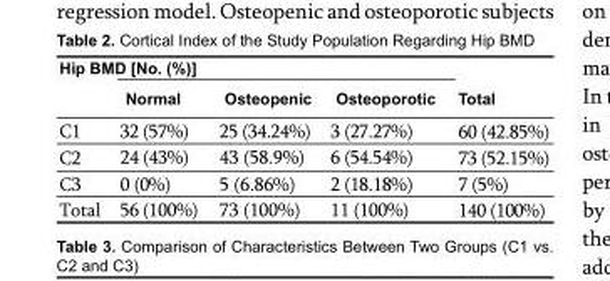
<table><thead><tr><td colspan="5">Hip BMD [No. (%)]</td></tr><tr><td></td><td>Normal</td><td>Osteopenic</td><td>Osteoporotic</td><td>Total</td></tr></thead><tbody><tr><td>C1</td><td>32 (57%)</td><td>25 (34.24%)</td><td>3 (27.27%)</td><td>60 (42.85%)</td></tr><tr><td>C2</td><td>24 (43%)</td><td>43 (58.9%)</td><td>6 (54.54%)</td><td>73 (52.15%)</td></tr><tr><td>C3</td><td>0 (0%)</td><td>5 (6.86%)</td><td>2 (18.18%)</td><td>7 (5%)</td></tr><tr><td>Total</td><td>56 (100%)</td><td>73 (100%)</td><td>11 (100%)</td><td>140 (100%)</td></tr></tbody></table>